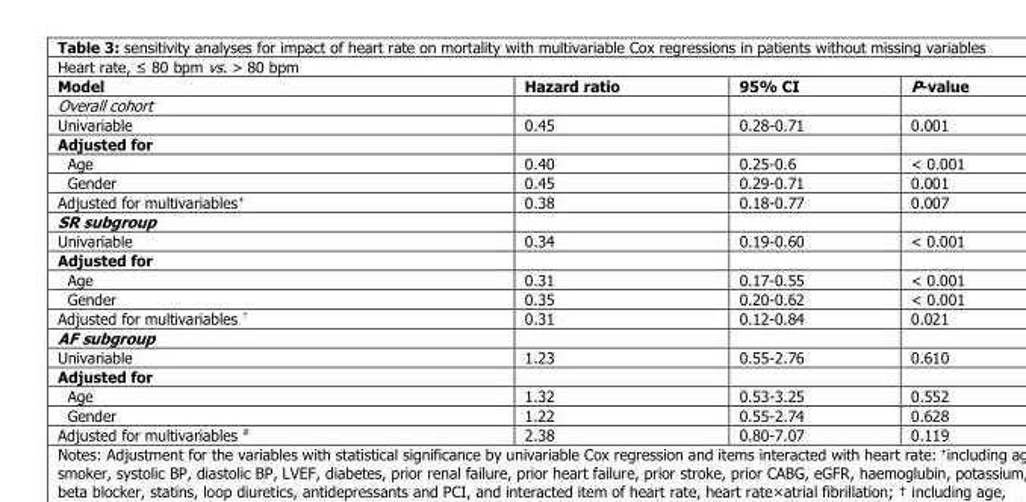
<table><thead><tr><td colspan="4">Heart rate, ≤ 80 bpm vs. &gt; 80 bpm</td></tr><tr><td>Model</td><td>Hazard ratio</td><td>95% CI</td><td>P-value</td></tr></thead><tbody><tr><td colspan="4">Overall cohort</td></tr><tr><td>Univariable</td><td>0.45</td><td>0.28-0.71</td><td>0.001</td></tr><tr><td colspan="4">Adjusted for</td></tr><tr><td>Age</td><td>0.40</td><td>0.25-0.6</td><td>&lt; 0.001</td></tr><tr><td>Gender</td><td>0.45</td><td>0.29-0.71</td><td>0.001</td></tr><tr><td>Adjusted for multivariables<sup>+</sup></td><td>0.38</td><td>0.18-0.77</td><td>0.007</td></tr><tr><td colspan="4">SR subgroup</td></tr><tr><td>Univariable</td><td>0.34</td><td>0.19-0.60</td><td>&lt; 0.001</td></tr><tr><td colspan="4">Adjusted for</td></tr><tr><td>Age</td><td>0.31</td><td>0.17-0.55</td><td>&lt; 0.001</td></tr><tr><td>Gender</td><td>0.35</td><td>0.20-0.62</td><td>&lt; 0.001</td></tr><tr><td>Adjusted for multivariables <sup>†</sup></td><td>0.31</td><td>0.12-0.84</td><td>0.021</td></tr><tr><td colspan="4">AF subgroup</td></tr><tr><td>Univariable</td><td>1.23</td><td>0.55-2.76</td><td>0.610</td></tr><tr><td colspan="4">Adjusted for</td></tr><tr><td>Age</td><td>1.32</td><td>0.53-3.25</td><td>0.552</td></tr><tr><td>Gender</td><td>1.22</td><td>0.55-2.74</td><td>0.628</td></tr><tr><td>Adjusted for multivariables <sup>#</sup></td><td>2.38</td><td>0.80-7.07</td><td>0.119</td></tr></tbody></table>